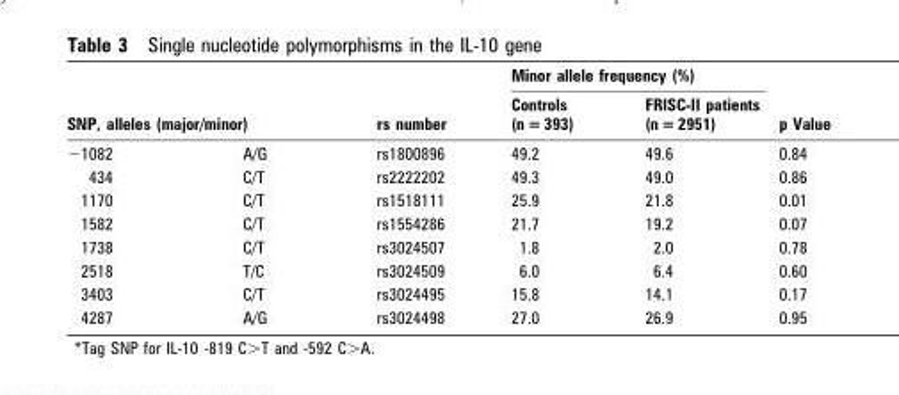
<table><thead><tr><td></td><td></td><td rowspan="2">rs number</td><td colspan="2">Minor allele frequency (%)</td><td rowspan="2">p Value</td></tr><tr><td colspan="2">SNP, alleles (major/minor)</td><td>Controls (n = 393)</td><td>FRISC-II patients (n = 2951)</td></tr></thead><tbody><tr><td>−1082</td><td>A/G</td><td>rs1800896</td><td>49.2</td><td>49.6</td><td>0.84</td></tr><tr><td>434</td><td>C/T</td><td>rs2222202</td><td>49.3</td><td>49.0</td><td>0.86</td></tr><tr><td>1170</td><td>C/T</td><td>rs1518111</td><td>25.9</td><td>21.8</td><td>0.01</td></tr><tr><td>1582</td><td>C/T</td><td>rs1554286</td><td>21.7</td><td>19.2</td><td>0.07</td></tr><tr><td>1738</td><td>C/T</td><td>rs3024507</td><td>1.8</td><td>2.0</td><td>0.78</td></tr><tr><td>2518</td><td>T/C</td><td>rs3024509</td><td>6.0</td><td>6.4</td><td>0.60</td></tr><tr><td>3403</td><td>C/T</td><td>rs3024495</td><td>15.8</td><td>14.1</td><td>0.17</td></tr><tr><td>4287</td><td>A/G</td><td>rs3024498</td><td>27.0</td><td>26.9</td><td>0.95</td></tr></tbody></table>